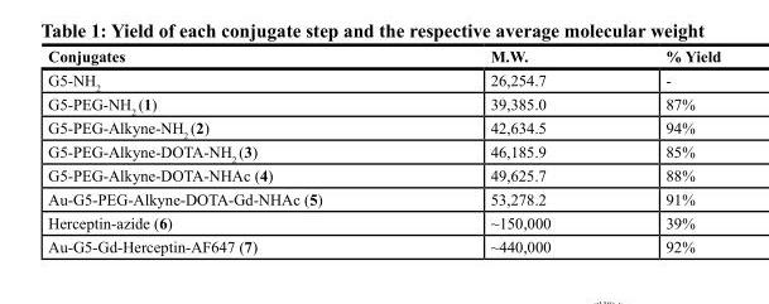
<table><thead><tr><td>Conjugates</td><td>M.W.</td><td>% Yield</td></tr></thead><tbody><tr><td>G5-NH<sub>2</sub></td><td>26,254.7</td><td>-</td></tr><tr><td>G5-PEG-NH<sub>2</sub> (1)</td><td>39,385.0</td><td>87%</td></tr><tr><td>G5-PEG-Alkyne-NH<sub>2</sub> (2)</td><td>42,634.5</td><td>94%</td></tr><tr><td>G5-PEG-Alkyne-DOTA-NH<sub>2</sub> (3)</td><td>46,185.9</td><td>85%</td></tr><tr><td>G5-PEG-Alkyne-DOTA-NHAc (4)</td><td>49,625.7</td><td>88%</td></tr><tr><td>Au-G5-PEG-Alkyne-DOTA-Gd-NHAc (5)</td><td>53,278.2</td><td>91%</td></tr><tr><td>Herceptin-azide (6)</td><td>~150,000</td><td>39%</td></tr><tr><td>Au-G5-Gd-Herceptin-AF647 (7)</td><td>~440,000</td><td>92%</td></tr></tbody></table>